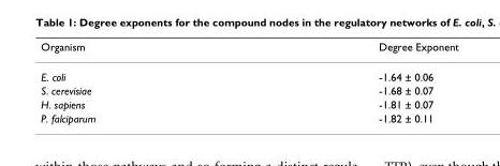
<table><thead><tr><td>Organism</td><td>Degree Exponent</td></tr></thead><tbody><tr><td>E. coli</td><td>-1.64 ± 0.06</td></tr><tr><td>S. cerevisiae</td><td>-1.68 ± 0.07</td></tr><tr><td>H. sapiens</td><td>-1.81 ± 0.07</td></tr><tr><td>P. falciparum</td><td>-1.82 ± 0.11</td></tr></tbody></table>